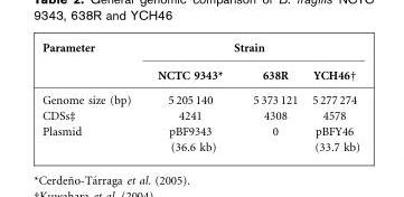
<table><thead><tr><td rowspan="2">Parameter</td><td colspan="3">Strain</td></tr><tr><td>NCTC 9343*</td><td>638R</td><td>YCH46†</td></tr></thead><tbody><tr><td>Genome size (bp)</td><td>5 205 140</td><td>5 373 121</td><td>5 277 274</td></tr><tr><td>CDSs‡</td><td>4241</td><td>4308</td><td>4578</td></tr><tr><td>Plasmid</td><td>pBF9343 (36.6 kb)</td><td>0</td><td>pBFY46 (33.7 kb)</td></tr></tbody></table>